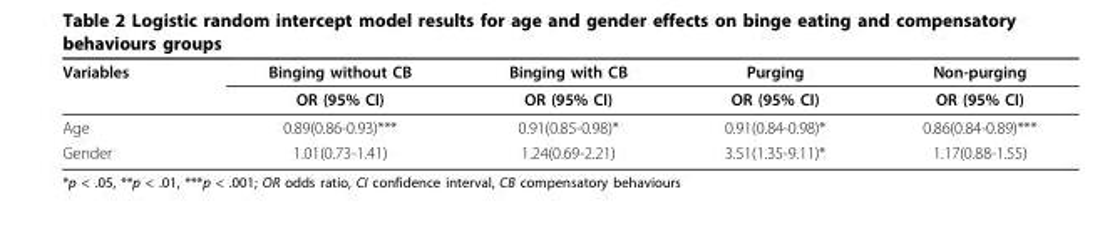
<table><thead><tr><td rowspan="2">Variables</td><td rowspan="2">Binging without CB OR (95% CI)</td><td rowspan="2">Binging with CB OR (95% CI)</td><td rowspan="2">Purging OR (95% CI)</td><td rowspan="2">Non-purging OR (95% CI)</td></tr><tr></tr></thead><tbody><tr><td>Age</td><td>0.89(0.86-0.93)***</td><td>0.91(0.85-0.98)*</td><td>0.91(0.84-0.98)*</td><td>0.86(0.84-0.89)***</td></tr><tr><td>Gender</td><td>1.01(0.73-1.41)</td><td>1.24(0.69-2.21)</td><td>3.51(1.35-9.11)*</td><td>1.17(0.88-1.55)</td></tr></tbody></table>